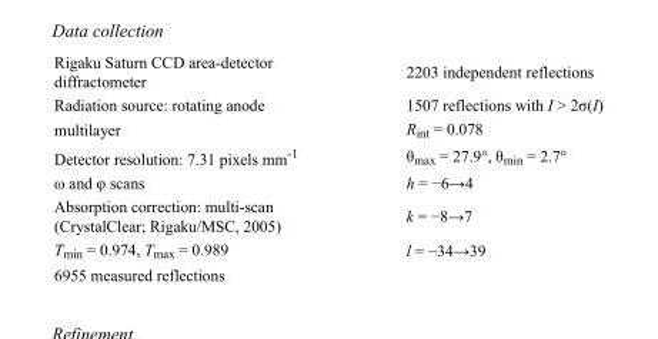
<table><tbody><tr><td>Rigaku Saturn CCD area-detector diffractometer</td><td>2203 independent reflections</td></tr><tr><td>Radiation source: rotating anode</td><td>1507 reflections with I &gt; 2σ(I)</td></tr><tr><td>multilayer</td><td>R<sub>int</sub> = 0.078</td></tr><tr><td>Detector resolution: 7.31 pixels mm<sup>-1</sup></td><td>θ<sub>max</sub> = 27.9°, θ<sub>min</sub> = 2.7°</td></tr><tr><td>ω and φ scans</td><td>h = −6→4</td></tr><tr><td>Absorption correction: multi-scan (CrystalClear; Rigaku/MSC, 2005)</td><td>k = −8→7</td></tr><tr><td>T<sub>min</sub> = 0.974, T<sub>max</sub> = 0.989</td><td>l = −34→39</td></tr><tr><td>6955 measured reflections</td><td></td></tr></tbody></table>